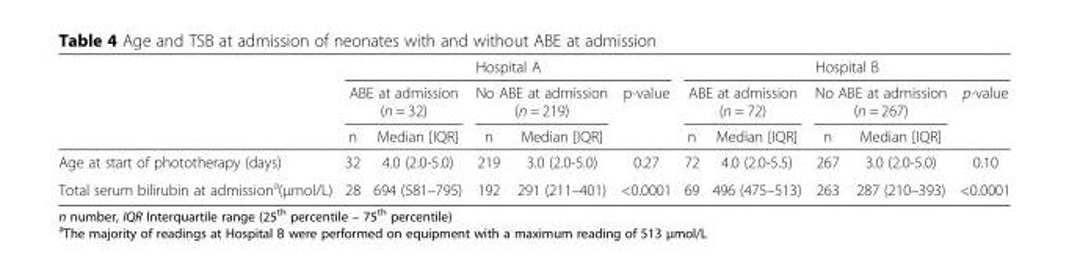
<table><thead><tr><td rowspan="3"></td><td colspan="5">Hospital A</td><td colspan="5">Hospital B</td></tr><tr><td colspan="2">ABE at admission (n = 32)</td><td colspan="2">No ABE at admission (n = 219)</td><td rowspan="2">p-value</td><td colspan="2">ABE at admission (n = 72)</td><td colspan="2">No ABE at admission (n = 267)</td><td rowspan="2">p-value</td></tr><tr><td>n</td><td>Median [IQR]</td><td>n</td><td>Median [IQR]</td><td>n</td><td>Median [IQR]</td><td>n</td><td>Median [IQR]</td></tr></thead><tbody><tr><td>Age at start of phototherapy (days)</td><td>32</td><td>4.0 (2.0-5.0)</td><td>219</td><td>3.0 (2.0-5.0)</td><td>0.27</td><td>72</td><td>4.0 (2.0-5.5)</td><td>267</td><td>3.0 (2.0-5.0)</td><td>0.10</td></tr><tr><td>Total serum bilirubin at admission<sup>a</sup>(μmol/L)</td><td>28</td><td>694 (581–795)</td><td>192</td><td>291 (211–401)</td><td>&lt;0.0001</td><td>69</td><td>496 (475–513)</td><td>263</td><td>287 (210–393)</td><td>&lt;0.0001</td></tr></tbody></table>